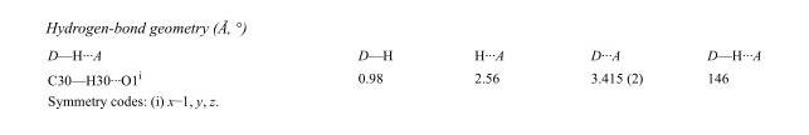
<table><tbody><tr><td>D—H···A</td><td>D—H</td><td>H···A</td><td>D···A</td><td>D—H···A</td></tr><tr><td>C30—H30···O1<sup>i</sup></td><td>0.98</td><td>2.56</td><td>3.415 (2)</td><td>146</td></tr></tbody></table>